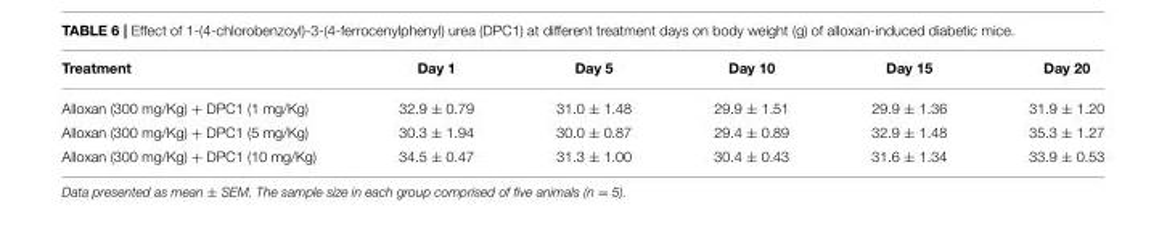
<table><thead><tr><td>Treatment</td><td>Day 1</td><td>Day 5</td><td>Day 10</td><td>Day 15</td><td>Day 20</td></tr></thead><tbody><tr><td>Alloxan (300 mg/Kg) + DPC1 (1 mg/Kg)</td><td>32.9 ± 0.79</td><td>31.0 ± 1.48</td><td>29.9 ± 1.51</td><td>29.9 ± 1.36</td><td>31.9 ± 1.20</td></tr><tr><td>Alloxan (300 mg/Kg) + DPC1 (5 mg/Kg)</td><td>30.3 ± 1.94</td><td>30.0 ± 0.87</td><td>29.4 ± 0.89</td><td>32.9 ± 1.48</td><td>35.3 ± 1.27</td></tr><tr><td>Alloxan (300 mg/Kg) + DPC1 (10 mg/Kg)</td><td>34.5 ± 0.47</td><td>31.3 ± 1.00</td><td>30.4 ± 0.43</td><td>31.6 ± 1.34</td><td>33.9 ± 0.53</td></tr></tbody></table>